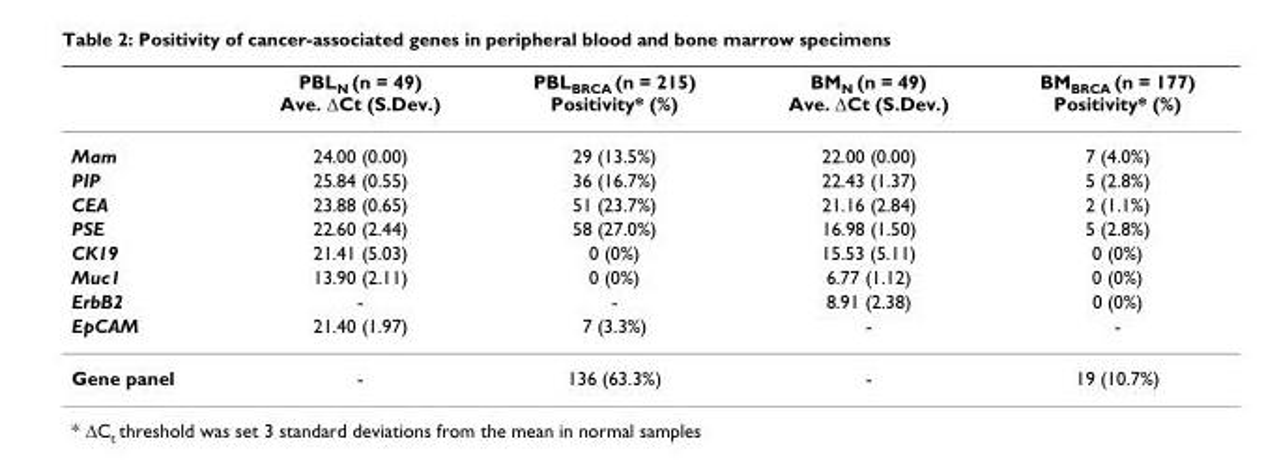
<table><thead><tr><td></td><td>PBLN (n = 49) Ave. ΔCt (S.Dev.)</td><td>PBLBRCA (n = 215) Positivity* (%)</td><td>BMN (n = 49) Ave. ΔCt (S.Dev.)</td><td>BMBRCA (n = 177) Positivity* (%)</td></tr></thead><tbody><tr><td>Mam</td><td>24.00 (0.00)</td><td>29 (13.5%)</td><td>22.00 (0.00)</td><td>7 (4.0%)</td></tr><tr><td>PIP</td><td>25.84 (0.55)</td><td>36 (16.7%)</td><td>22.43 (1.37)</td><td>5 (2.8%)</td></tr><tr><td>CEA</td><td>23.88 (0.65)</td><td>51 (23.7%)</td><td>21.16 (2.84)</td><td>2 (1.1%)</td></tr><tr><td>PSE</td><td>22.60 (2.44)</td><td>58 (27.0%)</td><td>16.98 (1.50)</td><td>5 (2.8%)</td></tr><tr><td>CK19</td><td>21.41 (5.03)</td><td>0 (0%)</td><td>15.53 (5.11)</td><td>0 (0%)</td></tr><tr><td>Muc1</td><td>13.90 (2.11)</td><td>0 (0%)</td><td>6.77 (1.12)</td><td>0 (0%)</td></tr><tr><td>ErbB2</td><td>-</td><td>-</td><td>8.91 (2.38)</td><td>0 (0%)</td></tr><tr><td>EpCAM</td><td>21.40 (1.97)</td><td>7 (3.3%)</td><td>-</td><td>-</td></tr><tr><td>Gene panel</td><td>-</td><td>136 (63.3%)</td><td>-</td><td>19 (10.7%)</td></tr></tbody></table>